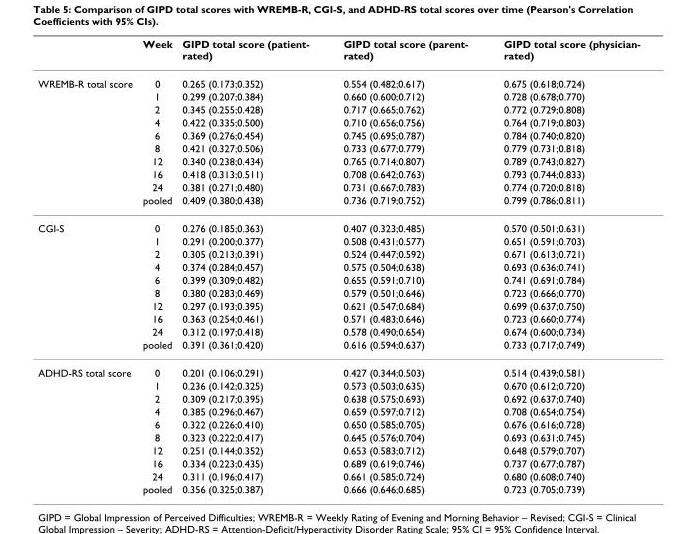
<table><thead><tr><td></td><td>Week</td><td>GIPD total score (patient- rated)</td><td>GIPD total score (parent- rated)</td><td>GIPD total score (physician- rated)</td></tr></thead><tbody><tr><td rowspan="10">WREMB-R total score</td><td>0</td><td>0.265 (0.173;0.352)</td><td>0.554 (0.482;0.617)</td><td>0.675 (0.618;0.724)</td></tr><tr><td>1</td><td>0.299 (0.207;0.384)</td><td>0.660 (0.600;0.712)</td><td>0.728 (0.678;0.770)</td></tr><tr><td>2</td><td>0.345 (0.255;0.428)</td><td>0.717 (0.665;0.762)</td><td>0.772 (0.729;0.808)</td></tr><tr><td>4</td><td>0.422 (0.335;0.500)</td><td>0.710 (0.656;0.756)</td><td>0.764 (0.719;0.803)</td></tr><tr><td>6</td><td>0.369 (0.276;0.454)</td><td>0.745 (0.695;0.787)</td><td>0.784 (0.740;0.820)</td></tr><tr><td>8</td><td>0.421 (0.327;0.506)</td><td>0.733 (0.677;0.779)</td><td>0.779 (0.731;0.818)</td></tr><tr><td>12</td><td>0.340 (0.238;0.434)</td><td>0.765 (0.714;0.807)</td><td>0.789 (0.743;0.827)</td></tr><tr><td>16</td><td>0.418 (0.313;0.511)</td><td>0.708 (0.642;0.763)</td><td>0.793 (0.744;0.833)</td></tr><tr><td>24</td><td>0.381 (0.271;0.480)</td><td>0.731 (0.667;0.783)</td><td>0.774 (0.720;0.818)</td></tr><tr><td>pooled</td><td>0.409 (0.380;0.438)</td><td>0.736 (0.719;0.752)</td><td>0.799 (0.786;0.811)</td></tr><tr><td rowspan="10">CGI-S</td><td>0</td><td>0.276 (0.185;0.363)</td><td>0.407 (0.323;0.485)</td><td>0.570 (0.501;0.631)</td></tr><tr><td>1</td><td>0.291 (0.200;0.377)</td><td>0.508 (0.431;0.577)</td><td>0.651 (0.591;0.703)</td></tr><tr><td>2</td><td>0.305 (0.213;0.391)</td><td>0.524 (0.447;0.592)</td><td>0.671 (0.613;0.721)</td></tr><tr><td>4</td><td>0.374 (0.284;0.457)</td><td>0.575 (0.504;0.638)</td><td>0.693 (0.636;0.741)</td></tr><tr><td>6</td><td>0.399 (0.309;0.482)</td><td>0.655 (0.591;0.710)</td><td>0.741 (0.691;0.784)</td></tr><tr><td>8</td><td>0.380 (0.283;0.469)</td><td>0.579 (0.501;0.646)</td><td>0.723 (0.666;0.770)</td></tr><tr><td>12</td><td>0.297 (0.193;0.395)</td><td>0.621 (0.547;0.684)</td><td>0.699 (0.637;0.750)</td></tr><tr><td>16</td><td>0.363 (0.254;0.461)</td><td>0.571 (0.483;0.646)</td><td>0.723 (0.660;0.774)</td></tr><tr><td>24</td><td>0.312 (0.197;0.418)</td><td>0.578 (0.490;0.654)</td><td>0.674 (0.600;0.734)</td></tr><tr><td>pooled</td><td>0.391 (0.361;0.420)</td><td>0.616 (0.594;0.637)</td><td>0.733 (0.717;0.749)</td></tr><tr><td rowspan="10">ADHD-RS total score</td><td>0</td><td>0.201 (0.106;0.291)</td><td>0.427 (0.344;0.503)</td><td>0.514 (0.439;0.581)</td></tr><tr><td>1</td><td>0.236 (0.142;0.325)</td><td>0.573 (0.503;0.635)</td><td>0.670 (0.612;0.720)</td></tr><tr><td>2</td><td>0.309 (0.217;0.395)</td><td>0.638 (0.575;0.693)</td><td>0.692 (0.637;0.740)</td></tr><tr><td>4</td><td>0.385 (0.296;0.467)</td><td>0.659 (0.597;0.712)</td><td>0.708 (0.654;0.754)</td></tr><tr><td>6</td><td>0.322 (0.226;0.410)</td><td>0.650 (0.585;0.705)</td><td>0.676 (0.616;0.728)</td></tr><tr><td>8</td><td>0.323 (0.222;0.417)</td><td>0.645 (0.576;0.704)</td><td>0.693 (0.631;0.745)</td></tr><tr><td>12</td><td>0.251 (0.144;0.352)</td><td>0.653 (0.583;0.712)</td><td>0.648 (0.579;0.707)</td></tr><tr><td>16</td><td>0.334 (0.223;0.435)</td><td>0.689 (0.619;0.746)</td><td>0.737 (0.677;0.787)</td></tr><tr><td>24</td><td>0.311 (0.196;0.417)</td><td>0.661 (0.585;0.724)</td><td>0.680 (0.608;0.740)</td></tr><tr><td>pooled</td><td>0.356 (0.325;0.387)</td><td>0.666 (0.646;0.685)</td><td>0.723 (0.705;0.739)</td></tr></tbody></table>